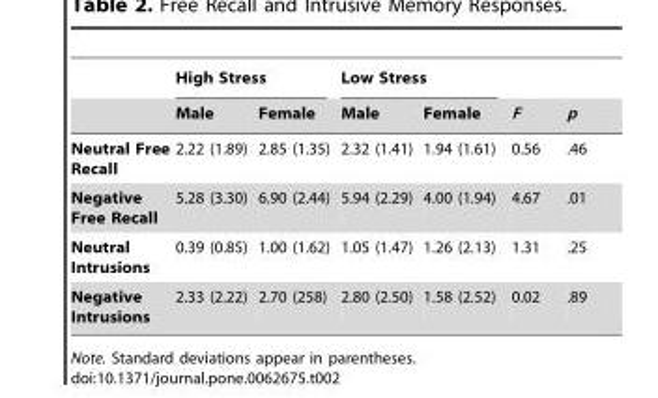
<table><thead><tr><td rowspan="2"></td><td colspan="2">High Stress</td><td colspan="2">Low Stress</td><td rowspan="2">F</td><td rowspan="2">p</td></tr><tr><td>Male</td><td>Female</td><td>Male</td><td>Female</td></tr></thead><tbody><tr><td>Neutral Free Recall</td><td>2.22 (1.89)</td><td>2.85 (1.35)</td><td>2.32 (1.41)</td><td>1.94 (1.61)</td><td>0.56</td><td>.46</td></tr><tr><td>Negative Free Recall</td><td>5.28 (3.30)</td><td>6.90 (2.44)</td><td>5.94 (2.29)</td><td>4.00 (1.94)</td><td>4.67</td><td>.01</td></tr><tr><td>Neutral Intrusions</td><td>0.39 (0.85)</td><td>1.00 (1.62)</td><td>1.05 (1.47)</td><td>1.26 (2.13)</td><td>1.31</td><td>.25</td></tr><tr><td>Negative Intrusions</td><td>2.33 (2.22)</td><td>2.70 (258)</td><td>2.80 (2.50)</td><td>1.58 (2.52)</td><td>0.02</td><td>.89</td></tr></tbody></table>